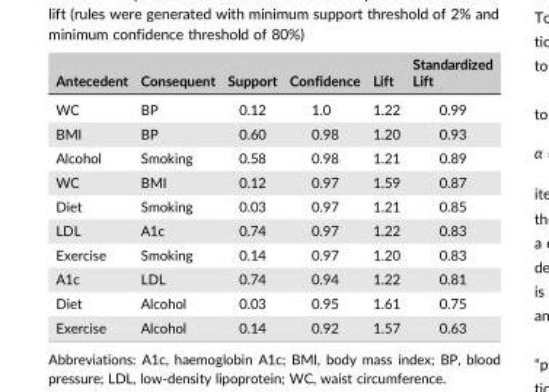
<table><thead><tr><td>Antecedent</td><td>Consequent</td><td>Support</td><td>Confidence</td><td>Lift</td><td>Standardized Lift</td></tr></thead><tbody><tr><td>WC</td><td>BP</td><td>0.12</td><td>1.0</td><td>1.22</td><td>0.99</td></tr><tr><td>BMI</td><td>BP</td><td>0.60</td><td>0.98</td><td>1.20</td><td>0.93</td></tr><tr><td>Alcohol</td><td>Smoking</td><td>0.58</td><td>0.98</td><td>1.21</td><td>0.89</td></tr><tr><td>WC</td><td>BMI</td><td>0.12</td><td>0.97</td><td>1.59</td><td>0.87</td></tr><tr><td>Diet</td><td>Smoking</td><td>0.03</td><td>0.97</td><td>1.21</td><td>0.85</td></tr><tr><td>LDL</td><td>A1c</td><td>0.74</td><td>0.97</td><td>1.22</td><td>0.83</td></tr><tr><td>Exercise</td><td>Smoking</td><td>0.14</td><td>0.97</td><td>1.20</td><td>0.83</td></tr><tr><td>A1c</td><td>LDL</td><td>0.74</td><td>0.94</td><td>1.22</td><td>0.81</td></tr><tr><td>Diet</td><td>Alcohol</td><td>0.03</td><td>0.95</td><td>1.61</td><td>0.75</td></tr><tr><td>Exercise</td><td>Alcohol</td><td>0.14</td><td>0.92</td><td>1.57</td><td>0.63</td></tr></tbody></table>